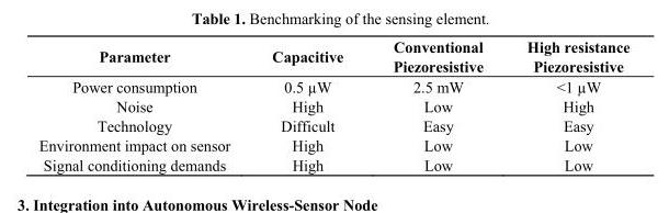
<table><thead><tr><td>Parameter</td><td>Capacitive</td><td>Conventional Piezoresistive</td><td>High resistance Piezoresistive</td></tr></thead><tbody><tr><td>Power consumption</td><td>0.5 µW</td><td>2.5 mW</td><td>&lt;1 µW</td></tr><tr><td>Noise</td><td>High</td><td>Low</td><td>High</td></tr><tr><td>Technology</td><td>Difficult</td><td>Easy</td><td>Easy</td></tr><tr><td>Environment impact on sensor</td><td>High</td><td>Low</td><td>Low</td></tr><tr><td>Signal conditioning demands</td><td>High</td><td>Low</td><td>Low</td></tr></tbody></table>